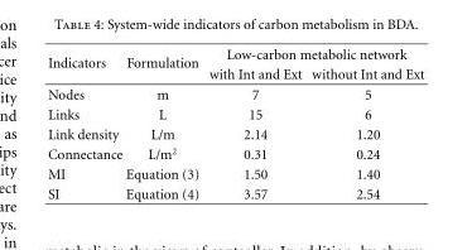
<table><thead><tr><td rowspan="2">Indicators</td><td rowspan="2">Formulation</td><td colspan="2">Low-carbon metabolic network</td></tr><tr><td>with Int and Ext</td><td>without Int and Ext</td></tr></thead><tbody><tr><td>Nodes</td><td>m</td><td>7</td><td>5</td></tr><tr><td>Links</td><td>L</td><td>15</td><td>6</td></tr><tr><td>Link density</td><td>L/m</td><td>2.14</td><td>1.20</td></tr><tr><td>Connectance</td><td>L/m<sup>2</sup></td><td>0.31</td><td>0.24</td></tr><tr><td>MI</td><td>Equation (3)</td><td>1.50</td><td>1.40</td></tr><tr><td>SI</td><td>Equation (4)</td><td>3.57</td><td>2.54</td></tr></tbody></table>